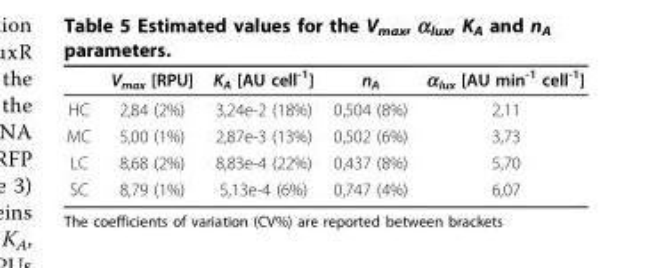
<table><thead><tr><td></td><td>V<sub>max</sub> [RPU]</td><td>K<sub>A</sub> [AU cell<sup>-1</sup>]</td><td>n<sub>A</sub></td><td>α<sub>lux</sub> [AU min<sup>-1</sup> cell<sup>-1</sup>]</td></tr></thead><tbody><tr><td>HC</td><td>2,84 (2%)</td><td>3,24e-2 (18%)</td><td>0,504 (8%)</td><td>2,11</td></tr><tr><td>MC</td><td>5,00 (1%)</td><td>2,87e-3 (13%)</td><td>0,502 (6%)</td><td>3,73</td></tr><tr><td>LC</td><td>8,68 (2%)</td><td>8,83e-4 (22%)</td><td>0,437 (8%)</td><td>5,70</td></tr><tr><td>SC</td><td>8,79 (1%)</td><td>5,13e-4 (6%)</td><td>0,747 (4%)</td><td>6,07</td></tr></tbody></table>